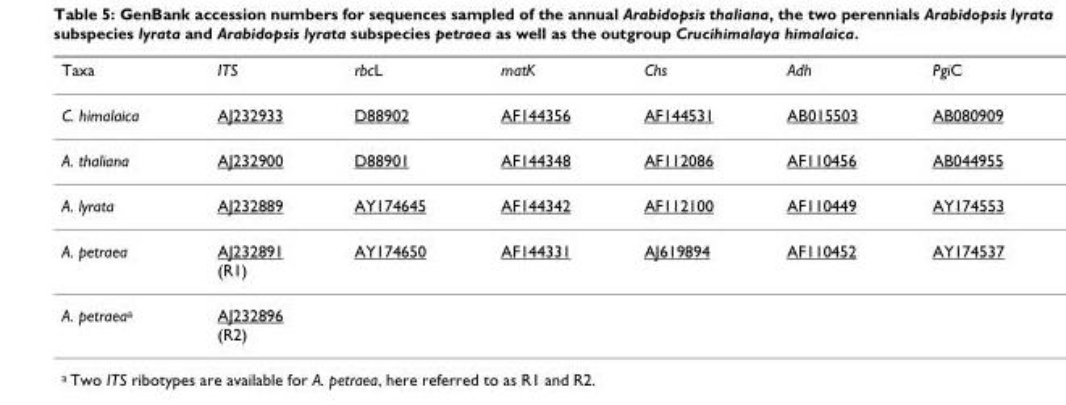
<table><thead><tr><td>Taxa</td><td>ITS</td><td>rbcL</td><td>matK</td><td>Chs</td><td>Adh</td><td>PgiC</td></tr></thead><tbody><tr><td>C. himalaica</td><td>AJ232933</td><td>D88902</td><td>AF144356</td><td>AF144531</td><td>AB015503</td><td>AB080909</td></tr><tr><td>A. thaliana</td><td>AJ232900</td><td>D88901</td><td>AF144348</td><td>AF112086</td><td>AF110456</td><td>AB044955</td></tr><tr><td>A. lyrata</td><td>AJ232889</td><td>AY174645</td><td>AF144342</td><td>AF112100</td><td>AF110449</td><td>AY174553</td></tr><tr><td>A. petraea</td><td>AJ232891 (R1)</td><td>AY174650</td><td>AF144331</td><td>AJ619894</td><td>AF110452</td><td>AY174537</td></tr><tr><td>A. petraea<sup>a</sup></td><td>AJ232896 (R2)</td><td></td><td></td><td></td><td></td><td></td></tr></tbody></table>